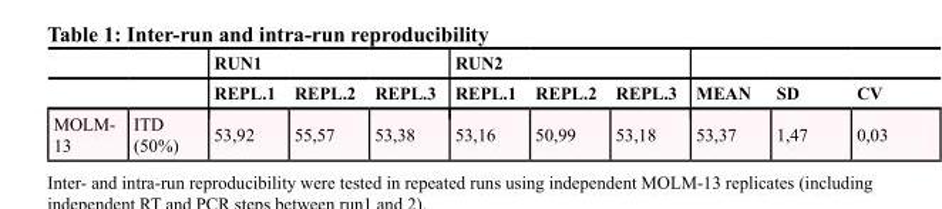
<table><thead><tr><td rowspan="2"></td><td rowspan="2"></td><td colspan="3">RUN1</td><td colspan="3">RUN2</td><td rowspan="2">MEAN</td><td rowspan="2">SD</td><td rowspan="2">CV</td></tr><tr><td>REPL.1</td><td>REPL.2</td><td>REPL.3</td><td>REPL.1</td><td>REPL.2</td><td>REPL.3</td></tr></thead><tbody><tr><td>MOLM- 13</td><td>ITD (50%)</td><td>53,92</td><td>55,57</td><td>53,38</td><td>53,16</td><td>50,99</td><td>53,18</td><td>53,37</td><td>1,47</td><td>0,03</td></tr></tbody></table>